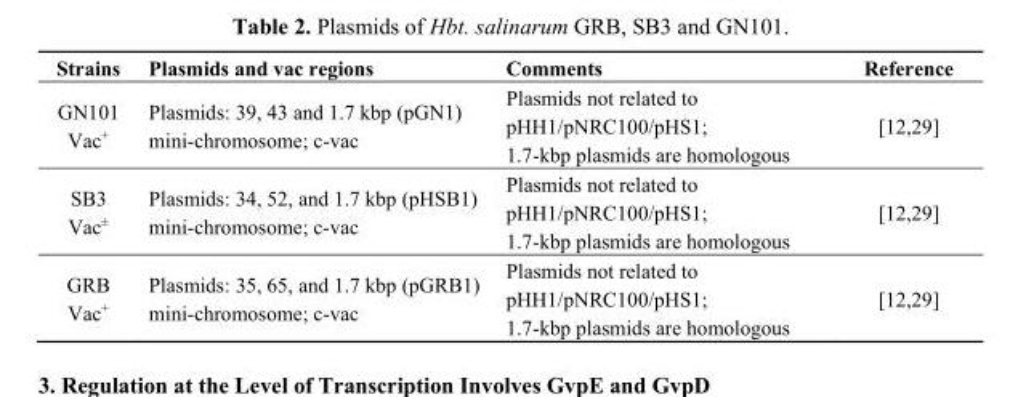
<table><thead><tr><td>Strains</td><td>Plasmids and vac regions</td><td>Comments</td><td>Reference</td></tr></thead><tbody><tr><td>GN101 Vac<sup>+</sup></td><td>Plasmids: 39, 43 and 1.7 kbp (pGN1) mini-chromosome; c-vac</td><td>Plasmids not related to pHH1/pNRC100/pHS1; 1.7-kbp plasmids are homologous</td><td>[12,29]</td></tr><tr><td>SB3 Vac<sup>±</sup></td><td>Plasmids: 34, 52, and 1.7 kbp (pHSB1) mini-chromosome; c-vac</td><td>Plasmids not related to pHH1/pNRC100/pHS1; 1.7-kbp plasmids are homologous</td><td>[12,29]</td></tr><tr><td>GRB Vac<sup>+</sup></td><td>Plasmids: 35, 65, and 1.7 kbp (pGRB1) mini-chromosome; c-vac</td><td>Plasmids not related to pHH1/pNRC100/pHS1; 1.7-kbp plasmids are homologous</td><td>[12,29]</td></tr></tbody></table>